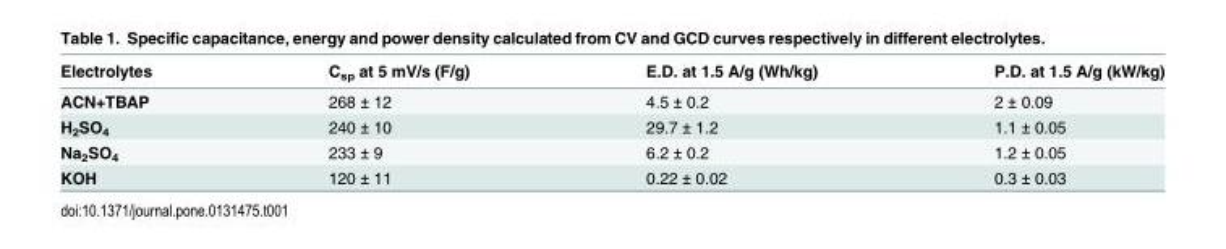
<table><thead><tr><td>Electrolytes</td><td>C<sub>sp</sub> at 5 mV/s (F/g)</td><td>E.D. at 1.5 A/g (Wh/kg)</td><td>P.D. at 1.5 A/g (kW/kg)</td></tr></thead><tbody><tr><td>ACN+TBAP</td><td>268 ± 12</td><td>4.5 ± 0.2</td><td>2 ± 0.09</td></tr><tr><td>H2SO4</td><td>240 ± 10</td><td>29.7 ± 1.2</td><td>1.1 ± 0.05</td></tr><tr><td>Na2SO4</td><td>233 ± 9</td><td>6.2 ± 0.2</td><td>1.2 ± 0.05</td></tr><tr><td>KOH</td><td>120 ± 11</td><td>0.22 ± 0.02</td><td>0.3 ± 0.03</td></tr></tbody></table>